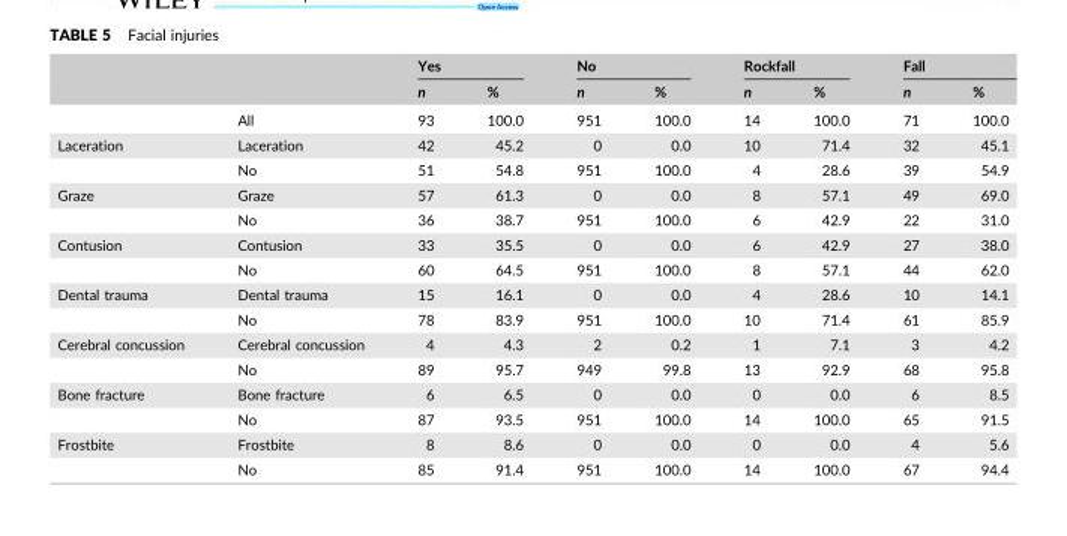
<table><thead><tr><td rowspan="2"></td><td rowspan="2"></td><td colspan="2">Yes</td><td colspan="2">No</td><td colspan="2">Rockfall</td><td colspan="2">Fall</td></tr><tr><td>n</td><td>%</td><td>n</td><td>%</td><td>n</td><td>%</td><td>n</td><td>%</td></tr></thead><tbody><tr><td></td><td>All</td><td>93</td><td>100.0</td><td>951</td><td>100.0</td><td>14</td><td>100.0</td><td>71</td><td>100.0</td></tr><tr><td rowspan="2">Laceration</td><td>Laceration</td><td>42</td><td>45.2</td><td>0</td><td>0.0</td><td>10</td><td>71.4</td><td>32</td><td>45.1</td></tr><tr><td>No</td><td>51</td><td>54.8</td><td>951</td><td>100.0</td><td>4</td><td>28.6</td><td>39</td><td>54.9</td></tr><tr><td rowspan="2">Graze</td><td>Graze</td><td>57</td><td>61.3</td><td>0</td><td>0.0</td><td>8</td><td>57.1</td><td>49</td><td>69.0</td></tr><tr><td>No</td><td>36</td><td>38.7</td><td>951</td><td>100.0</td><td>6</td><td>42.9</td><td>22</td><td>31.0</td></tr><tr><td rowspan="2">Contusion</td><td>Contusion</td><td>33</td><td>35.5</td><td>0</td><td>0.0</td><td>6</td><td>42.9</td><td>27</td><td>38.0</td></tr><tr><td>No</td><td>60</td><td>64.5</td><td>951</td><td>100.0</td><td>8</td><td>57.1</td><td>44</td><td>62.0</td></tr><tr><td rowspan="2">Dental trauma</td><td>Dental trauma</td><td>15</td><td>16.1</td><td>0</td><td>0.0</td><td>4</td><td>28.6</td><td>10</td><td>14.1</td></tr><tr><td>No</td><td>78</td><td>83.9</td><td>951</td><td>100.0</td><td>10</td><td>71.4</td><td>61</td><td>85.9</td></tr><tr><td rowspan="2">Cerebral concussion</td><td>Cerebral concussion</td><td>4</td><td>4.3</td><td>2</td><td>0.2</td><td>1</td><td>7.1</td><td>3</td><td>4.2</td></tr><tr><td>No</td><td>89</td><td>95.7</td><td>949</td><td>99.8</td><td>13</td><td>92.9</td><td>68</td><td>95.8</td></tr><tr><td rowspan="2">Bone fracture</td><td>Bone fracture</td><td>6</td><td>6.5</td><td>0</td><td>0.0</td><td>0</td><td>0.0</td><td>6</td><td>8.5</td></tr><tr><td>No</td><td>87</td><td>93.5</td><td>951</td><td>100.0</td><td>14</td><td>100.0</td><td>65</td><td>91.5</td></tr><tr><td rowspan="2">Frostbite</td><td>Frostbite</td><td>8</td><td>8.6</td><td>0</td><td>0.0</td><td>0</td><td>0.0</td><td>4</td><td>5.6</td></tr><tr><td>No</td><td>85</td><td>91.4</td><td>951</td><td>100.0</td><td>14</td><td>100.0</td><td>67</td><td>94.4</td></tr></tbody></table>